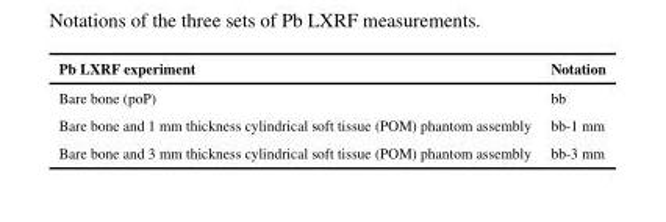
<table><thead><tr><td>Pb LXRF experiment</td><td>Notation</td></tr></thead><tbody><tr><td>Bare bone (poP)</td><td>bb</td></tr><tr><td>Bare bone and 1 mm thickness cylindrical soft tissue (POM) phantom assembly</td><td>bb-1 mm</td></tr><tr><td>Bare bone and 3 mm thickness cylindrical soft tissue (POM) phantom assembly</td><td>bb-3 mm</td></tr></tbody></table>